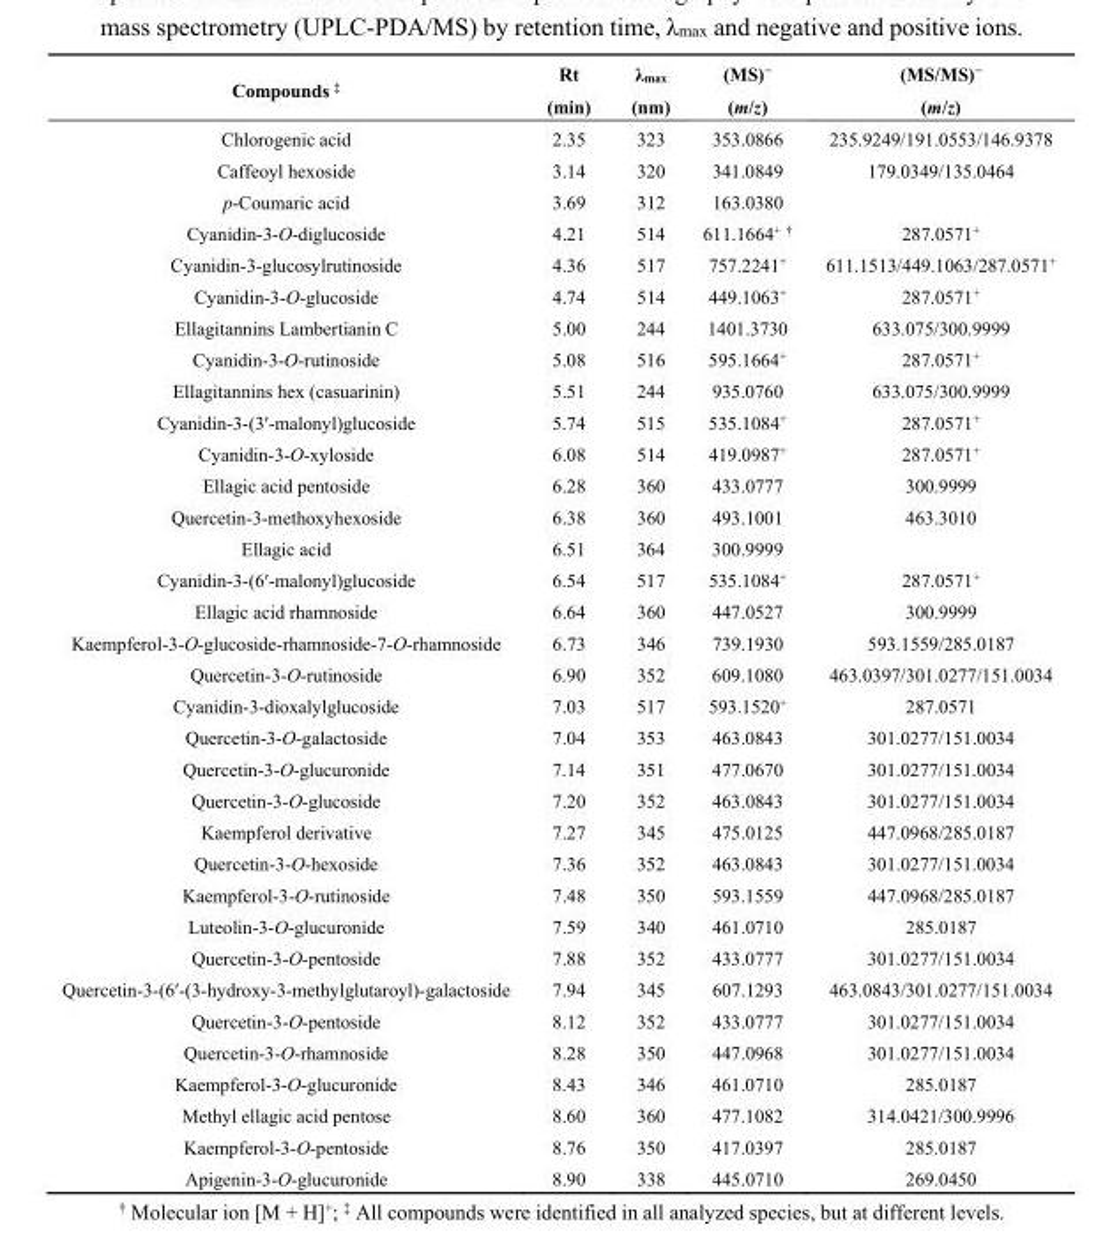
<table><thead><tr><td rowspan="2">Compounds <sup>‡</sup></td><td rowspan="2">Rt (min)</td><td rowspan="2">λ<sub>max</sub> (nm)</td><td rowspan="2">(MS)<sup>−</sup> (m/z)</td><td rowspan="2">(MS/MS)<sup>−</sup> (m/z)</td></tr><tr></tr></thead><tbody><tr><td>Chlorogenic acid</td><td>2.35</td><td>323</td><td>353.0866</td><td>235.9249/191.0553/146.9378</td></tr><tr><td>Caffeoyl hexoside</td><td>3.14</td><td>320</td><td>341.0849</td><td>179.0349/135.0464</td></tr><tr><td>p-Coumaric acid</td><td>3.69</td><td>312</td><td>163.0380</td><td></td></tr><tr><td>Cyanidin-3-O-diglucoside</td><td>4.21</td><td>514</td><td>611.1664<sup>+ †</sup></td><td>287.0571<sup>+</sup></td></tr><tr><td>Cyanidin-3-glucosylrutinoside</td><td>4.36</td><td>517</td><td>757.2241<sup>+</sup></td><td>611.1513/449.1063/287.0571<sup>+</sup></td></tr><tr><td>Cyanidin-3-O-glucoside</td><td>4.74</td><td>514</td><td>449.1063<sup>+</sup></td><td>287.0571<sup>+</sup></td></tr><tr><td>Ellagitannins Lambertianin C</td><td>5.00</td><td>244</td><td>1401.3730</td><td>633.075/300.9999</td></tr><tr><td>Cyanidin-3-O-rutinoside</td><td>5.08</td><td>516</td><td>595.1664<sup>+</sup></td><td>287.0571<sup>+</sup></td></tr><tr><td>Ellagitannins hex (casuarinin)</td><td>5.51</td><td>244</td><td>935.0760</td><td>633.075/300.9999</td></tr><tr><td>Cyanidin-3-(3ʹ-malonyl)glucoside</td><td>5.74</td><td>515</td><td>535.1084<sup>+</sup></td><td>287.0571<sup>+</sup></td></tr><tr><td>Cyanidin-3-O-xyloside</td><td>6.08</td><td>514</td><td>419.0987<sup>+</sup></td><td>287.0571<sup>+</sup></td></tr><tr><td>Ellagic acid pentoside</td><td>6.28</td><td>360</td><td>433.0777</td><td>300.9999</td></tr><tr><td>Quercetin-3-methoxyhexoside</td><td>6.38</td><td>360</td><td>493.1001</td><td>463.3010</td></tr><tr><td>Ellagic acid</td><td>6.51</td><td>364</td><td>300.9999</td><td></td></tr><tr><td>Cyanidin-3-(6ʹ-malonyl)glucoside</td><td>6.54</td><td>517</td><td>535.1084<sup>+</sup></td><td>287.0571<sup>+</sup></td></tr><tr><td>Ellagic acid rhamnoside</td><td>6.64</td><td>360</td><td>447.0527</td><td>300.9999</td></tr><tr><td>Kaempferol-3-O-glucoside-rhamnoside-7-O-rhamnoside</td><td>6.73</td><td>346</td><td>739.1930</td><td>593.1559/285.0187</td></tr><tr><td>Quercetin-3-O-rutinoside</td><td>6.90</td><td>352</td><td>609.1080</td><td>463.0397/301.0277/151.0034</td></tr><tr><td>Cyanidin-3-dioxalylglucoside</td><td>7.03</td><td>517</td><td>593.1520<sup>+</sup></td><td>287.0571</td></tr><tr><td>Quercetin-3-O-galactoside</td><td>7.04</td><td>353</td><td>463.0843</td><td>301.0277/151.0034</td></tr><tr><td>Quercetin-3-O-glucuronide</td><td>7.14</td><td>351</td><td>477.0670</td><td>301.0277/151.0034</td></tr><tr><td>Quercetin-3-O-glucoside</td><td>7.20</td><td>352</td><td>463.0843</td><td>301.0277/151.0034</td></tr><tr><td>Kaempferol derivative</td><td>7.27</td><td>345</td><td>475.0125</td><td>447.0968/285.0187</td></tr><tr><td>Quercetin-3-O-hexoside</td><td>7.36</td><td>352</td><td>463.0843</td><td>301.0277/151.0034</td></tr><tr><td>Kaempferol-3-O-rutinoside</td><td>7.48</td><td>350</td><td>593.1559</td><td>447.0968/285.0187</td></tr><tr><td>Luteolin-3-O-glucuronide</td><td>7.59</td><td>340</td><td>461.0710</td><td>285.0187</td></tr><tr><td>Quercetin-3-O-pentoside</td><td>7.88</td><td>352</td><td>433.0777</td><td>301.0277/151.0034</td></tr><tr><td>Quercetin-3-(6ʹ-(3-hydroxy-3-methylglutaroyl)-galactoside</td><td>7.94</td><td>345</td><td>607.1293</td><td>463.0843/301.0277/151.0034</td></tr><tr><td>Quercetin-3-O-pentoside</td><td>8.12</td><td>352</td><td>433.0777</td><td>301.0277/151.0034</td></tr><tr><td>Quercetin-3-O-rhamnoside</td><td>8.28</td><td>350</td><td>447.0968</td><td>301.0277/151.0034</td></tr><tr><td>Kaempferol-3-O-glucuronide</td><td>8.43</td><td>346</td><td>461.0710</td><td>285.0187</td></tr><tr><td>Methyl ellagic acid pentose</td><td>8.60</td><td>360</td><td>477.1082</td><td>314.0421/300.9996</td></tr><tr><td>Kaempferol-3-O-pentoside</td><td>8.76</td><td>350</td><td>417.0397</td><td>285.0187</td></tr><tr><td>Apigenin-3-O-glucuronide</td><td>8.90</td><td>338</td><td>445.0710</td><td>269.0450</td></tr></tbody></table>